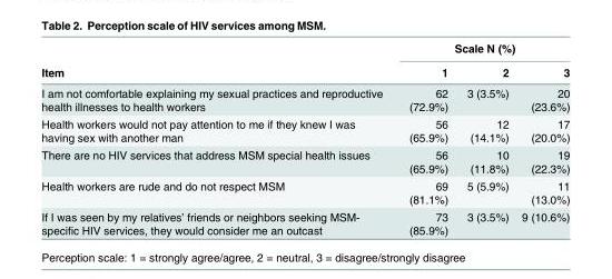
<table><thead><tr><td rowspan="2">Item</td><td colspan="3">Scale N (%)</td></tr><tr><td>1</td><td>2</td><td>3</td></tr></thead><tbody><tr><td>I am not comfortable explaining my sexual practices and reproductive health illnesses to health workers</td><td>62 (72.9%)</td><td>3 (3.5%)</td><td>20 (23.6%)</td></tr><tr><td>Health workers would not pay attention to me if they knew I was having sex with another man</td><td>56 (65.9%)</td><td>12 (14.1%)</td><td>17 (20.0%)</td></tr><tr><td>There are no HIV services that address MSM special health issues</td><td>56 (65.9%)</td><td>10 (11.8%)</td><td>19 (22.3%)</td></tr><tr><td>Health workers are rude and do not respect MSM</td><td>69 (81.1%)</td><td>5 (5.9%)</td><td>11 (13.0%)</td></tr><tr><td>If I was seen by my relatives’ friends or neighbors seeking MSM- specific HIV services, they would consider me an outcast</td><td>73 (85.9%)</td><td>3 (3.5%)</td><td>9 (10.6%)</td></tr></tbody></table>